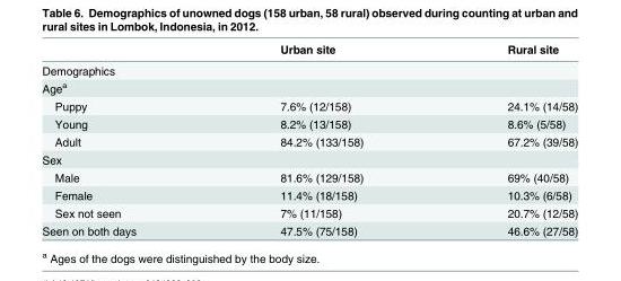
<table><thead><tr><td></td><td>Urban site</td><td>Rural site</td></tr></thead><tbody><tr><td colspan="3">Demographics</td></tr><tr><td colspan="3">Age<sup>a</sup></td></tr><tr><td>Puppy</td><td>7.6% (12/158)</td><td>24.1% (14/58)</td></tr><tr><td>Young</td><td>8.2% (13/158)</td><td>8.6% (5/58)</td></tr><tr><td>Adult</td><td>84.2% (133/158)</td><td>67.2% (39/58)</td></tr><tr><td colspan="3">Sex</td></tr><tr><td>Male</td><td>81.6% (129/158)</td><td>69% (40/58)</td></tr><tr><td>Female</td><td>11.4% (18/158)</td><td>10.3% (6/58)</td></tr><tr><td>Sex not seen</td><td>7% (11/158)</td><td>20.7% (12/58)</td></tr><tr><td>Seen on both days</td><td>47.5% (75/158)</td><td>46.6% (27/58)</td></tr></tbody></table>